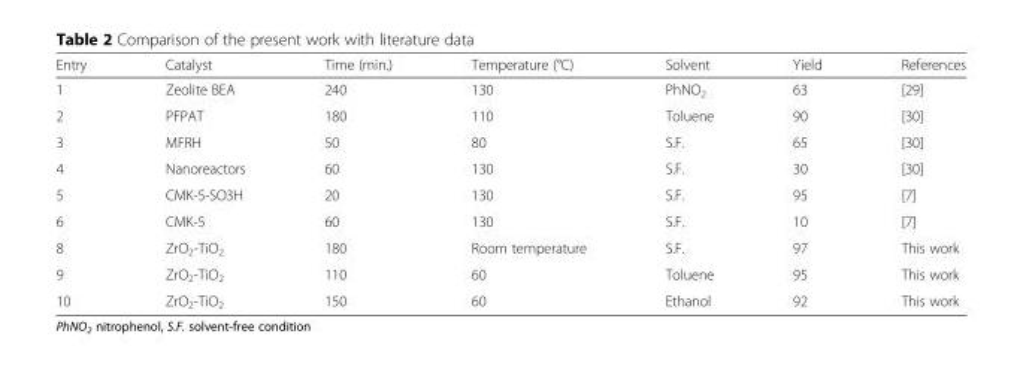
<table><thead><tr><td>Entry</td><td>Catalyst</td><td>Time (min.)</td><td>Temperature (°C)</td><td>Solvent</td><td>Yield</td><td>References</td></tr></thead><tbody><tr><td>1</td><td>Zeolite BEA</td><td>240</td><td>130</td><td>PhNO<sub>2</sub></td><td>63</td><td>[29]</td></tr><tr><td>2</td><td>PFPAT</td><td>180</td><td>110</td><td>Toluene</td><td>90</td><td>[30]</td></tr><tr><td>3</td><td>MFRH</td><td>50</td><td>80</td><td>S.F.</td><td>65</td><td>[30]</td></tr><tr><td>4</td><td>Nanoreactors</td><td>60</td><td>130</td><td>S.F.</td><td>30</td><td>[30]</td></tr><tr><td>5</td><td>CMK-5-SO3H</td><td>20</td><td>130</td><td>S.F.</td><td>95</td><td>[7]</td></tr><tr><td>6</td><td>CMK-5</td><td>60</td><td>130</td><td>S.F.</td><td>10</td><td>[7]</td></tr><tr><td>8</td><td>ZrO<sub>2</sub>-TiO<sub>2</sub></td><td>180</td><td>Room temperature</td><td>S.F.</td><td>97</td><td>This work</td></tr><tr><td>9</td><td>ZrO<sub>2</sub>-TiO<sub>2</sub></td><td>110</td><td>60</td><td>Toluene</td><td>95</td><td>This work</td></tr><tr><td>10</td><td>ZrO<sub>2</sub>-TiO<sub>2</sub></td><td>150</td><td>60</td><td>Ethanol</td><td>92</td><td>This work</td></tr></tbody></table>